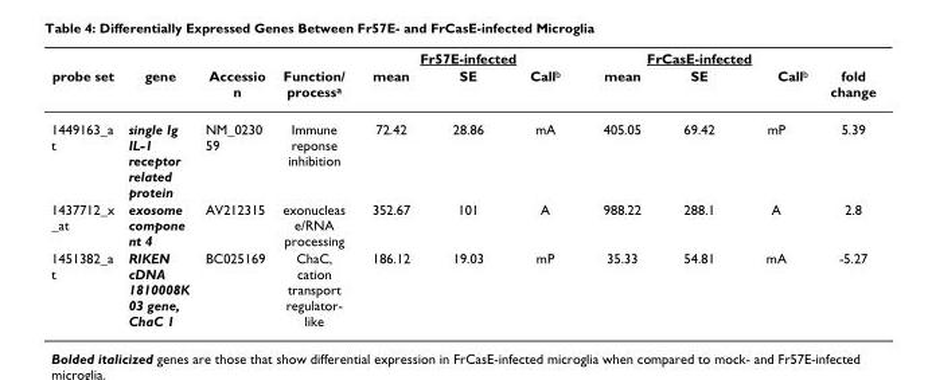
<table><thead><tr><td rowspan="2">probe set</td><td rowspan="2">gene</td><td rowspan="2">Accessio n</td><td rowspan="2">Function/ process<sup>a</sup></td><td colspan="3">Fr57E-infected</td><td colspan="3">FrCasE-infected</td><td rowspan="2">fold change</td></tr><tr><td>mean</td><td>SE</td><td>Call<sup>b</sup></td><td>mean</td><td>SE</td><td>Call<sup>b</sup></td></tr></thead><tbody><tr><td>1449163_a t</td><td>single Ig IL-1 receptor related protein</td><td>NM_0230 59</td><td>Immune reponse inhibition</td><td>72.42</td><td>28.86</td><td>mA</td><td>405.05</td><td>69.42</td><td>mP</td><td>5.39</td></tr><tr><td>1437712_x _at</td><td>exosome compone nt 4</td><td>AV212315</td><td>exonucleas e/RNA processing</td><td>352.67</td><td>101</td><td>A</td><td>988.22</td><td>288.1</td><td>A</td><td>2.8</td></tr><tr><td>1451382_a t</td><td>RIKEN cDNA 1810008K 03 gene, ChaC 1</td><td>BC025169</td><td>ChaC, cation transport regulator- like</td><td>186.12</td><td>19.03</td><td>mP</td><td>35.33</td><td>54.81</td><td>mA</td><td>-5.27</td></tr></tbody></table>